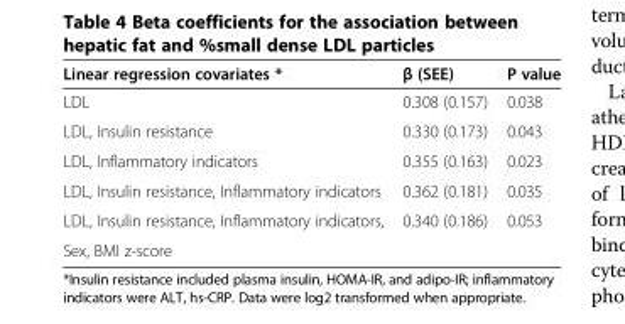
<table><thead><tr><td>Linear regression covariates *</td><td>β (SEE)</td><td>P value</td></tr></thead><tbody><tr><td>LDL</td><td>0.308 (0.157)</td><td>0.038</td></tr><tr><td>LDL, Insulin resistance</td><td>0.330 (0.173)</td><td>0.043</td></tr><tr><td>LDL, Inflammatory indicators</td><td>0.355 (0.163)</td><td>0.023</td></tr><tr><td>LDL, Insulin resistance, Inflammatory indicators</td><td>0.362 (0.181)</td><td>0.035</td></tr><tr><td>LDL, Insulin resistance, Inflammatory indicators,</td><td rowspan="2">0.340 (0.186)</td><td rowspan="2">0.053</td></tr><tr><td>Sex, BMI z-score</td></tr></tbody></table>